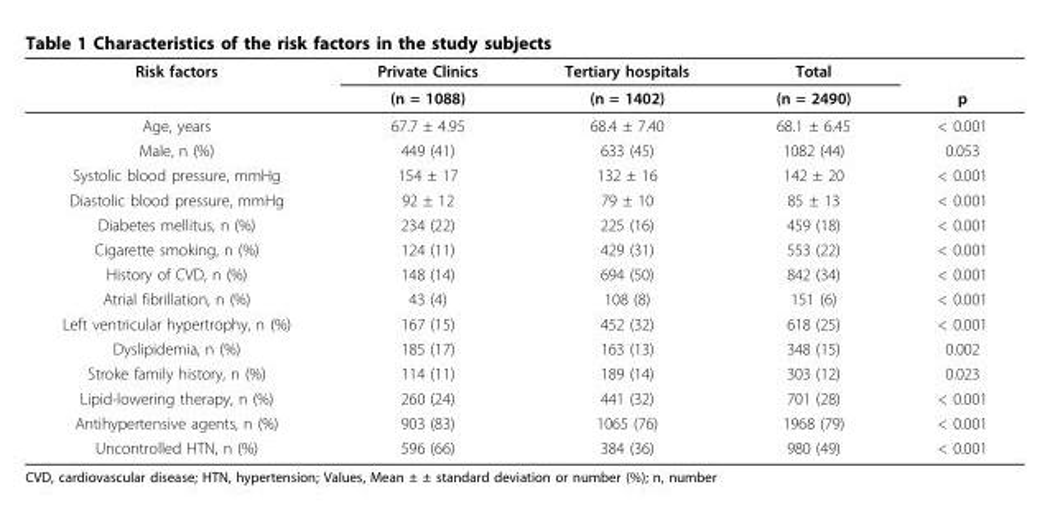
<table><thead><tr><td rowspan="2">Risk factors</td><td rowspan="2">Private Clinics (n = 1088)</td><td rowspan="2">Tertiary hospitals (n = 1402)</td><td rowspan="2">Total (n = 2490)</td><td rowspan="2">p</td></tr><tr></tr></thead><tbody><tr><td>Age, years</td><td>67.7 ± 4.95</td><td>68.4 ± 7.40</td><td>68.1 ± 6.45</td><td>&lt; 0.001</td></tr><tr><td>Male, n (%)</td><td>449 (41)</td><td>633 (45)</td><td>1082 (44)</td><td>0.053</td></tr><tr><td>Systolic blood pressure, mmHg</td><td>154 ± 17</td><td>132 ± 16</td><td>142 ± 20</td><td>&lt; 0.001</td></tr><tr><td>Diastolic blood pressure, mmHg</td><td>92 ± 12</td><td>79 ± 10</td><td>85 ± 13</td><td>&lt; 0.001</td></tr><tr><td>Diabetes mellitus, n (%)</td><td>234 (22)</td><td>225 (16)</td><td>459 (18)</td><td>&lt; 0.001</td></tr><tr><td>Cigarette smoking, n (%)</td><td>124 (11)</td><td>429 (31)</td><td>553 (22)</td><td>&lt; 0.001</td></tr><tr><td>History of CVD, n (%)</td><td>148 (14)</td><td>694 (50)</td><td>842 (34)</td><td>&lt; 0.001</td></tr><tr><td>Atrial fibrillation, n (%)</td><td>43 (4)</td><td>108 (8)</td><td>151 (6)</td><td>&lt; 0.001</td></tr><tr><td>Left ventricular hypertrophy, n (%)</td><td>167 (15)</td><td>452 (32)</td><td>618 (25)</td><td>&lt; 0.001</td></tr><tr><td>Dyslipidemia, n (%)</td><td>185 (17)</td><td>163 (13)</td><td>348 (15)</td><td>0.002</td></tr><tr><td>Stroke family history, n (%)</td><td>114 (11)</td><td>189 (14)</td><td>303 (12)</td><td>0.023</td></tr><tr><td>Lipid-lowering therapy, n (%)</td><td>260 (24)</td><td>441 (32)</td><td>701 (28)</td><td>&lt; 0.001</td></tr><tr><td>Antihypertensive agents, n (%)</td><td>903 (83)</td><td>1065 (76)</td><td>1968 (79)</td><td>&lt; 0.001</td></tr><tr><td>Uncontrolled HTN, n (%)</td><td>596 (66)</td><td>384 (36)</td><td>980 (49)</td><td>&lt; 0.001</td></tr></tbody></table>